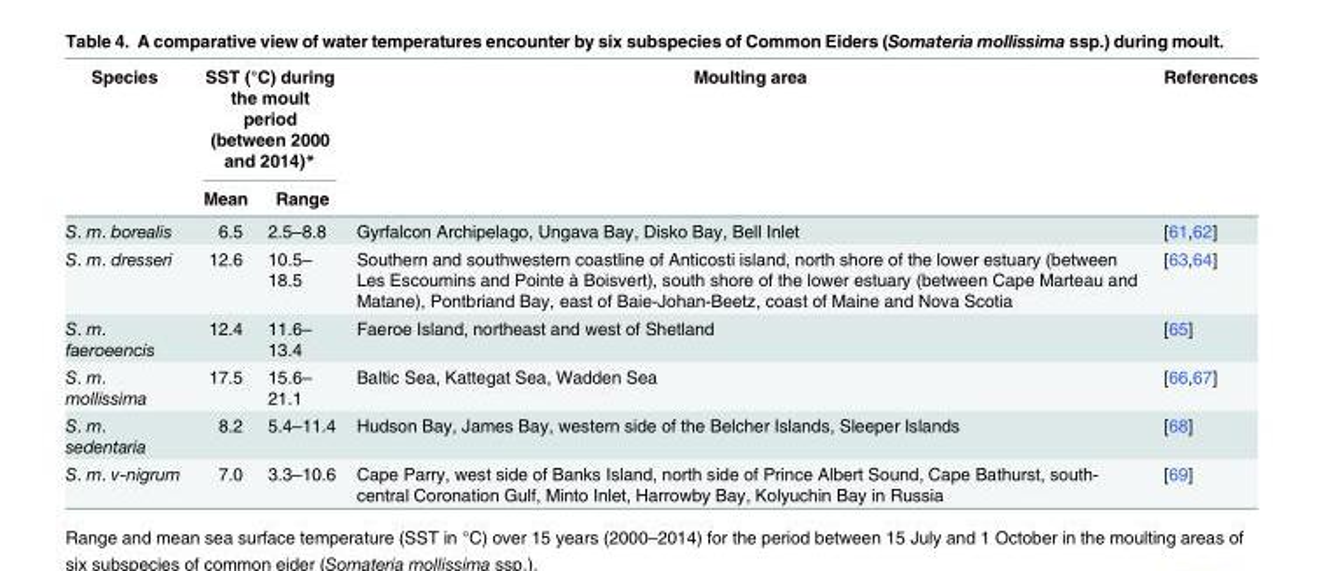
<table><thead><tr><td rowspan="2">Species</td><td colspan="2">SST (°C) during the moult period (between 2000 and 2014)*</td><td rowspan="2">Moulting area</td><td rowspan="2">References</td></tr><tr><td>Mean</td><td>Range</td></tr></thead><tbody><tr><td>S. m. borealis</td><td>6.5</td><td>2.5–8.8</td><td>Gyrfalcon Archipelago, Ungava Bay, Disko Bay, Bell Inlet</td><td>[61,62]</td></tr><tr><td>S. m. dresseri</td><td>12.6</td><td>10.5– 18.5</td><td>Southern and southwestern coastline of Anticosti island, north shore of the lower estuary (between Les Escoumins and Pointe à Boisvert), south shore of the lower estuary (between Cape Marteau and Matane), Pontbriand Bay, east of Baie-Johan-Beetz, coast of Maine and Nova Scotia</td><td>[63,64]</td></tr><tr><td>S. m. faeroeencis</td><td>12.4</td><td>11.6– 13.4</td><td>Faeroe Island, northeast and west of Shetland</td><td>[65]</td></tr><tr><td>S. m. mollissima</td><td>17.5</td><td>15.6– 21.1</td><td>Baltic Sea, Kattegat Sea, Wadden Sea</td><td>[66,67]</td></tr><tr><td>S. m. sedentaria</td><td>8.2</td><td>5.4–11.4</td><td>Hudson Bay, James Bay, western side of the Belcher Islands, Sleeper Islands</td><td>[68]</td></tr><tr><td>S. m. v-nigrum</td><td>7.0</td><td>3.3–10.6</td><td>Cape Parry, west side of Banks Island, north side of Prince Albert Sound, Cape Bathurst, south- central Coronation Gulf, Minto Inlet, Harrowby Bay, Kolyuchin Bay in Russia</td><td>[69]</td></tr></tbody></table>